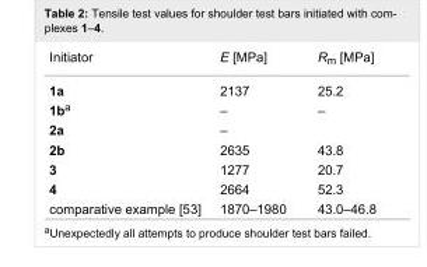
<table><tbody><tr><td>Initiator</td><td>E [MPa]</td><td>R<sub>m</sub> [MPa]</td></tr><tr><td>1a</td><td>2137</td><td>25.2</td></tr><tr><td>1b<sup>a</sup></td><td>–</td><td>–</td></tr><tr><td>2a</td><td>–</td><td></td></tr><tr><td>2b</td><td>2635</td><td>43.8</td></tr><tr><td>3</td><td>1277</td><td>20.7</td></tr><tr><td>4</td><td>2664</td><td>52.3</td></tr><tr><td>comparative example [53]</td><td>1870–1980</td><td>43.0–46.8</td></tr></tbody></table>